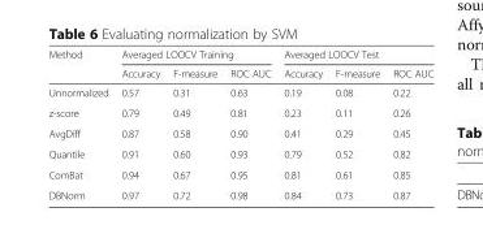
<table><thead><tr><td rowspan="2">Method</td><td colspan="3">Averaged LOOCV Training</td><td colspan="3">Averaged LOOCV Test</td></tr><tr><td>Accuracy</td><td>F-measure</td><td>ROC AUC</td><td>Accuracy</td><td>F-measure</td><td>ROC AUC</td></tr></thead><tbody><tr><td>Unnormalized</td><td>0.57</td><td>0.31</td><td>0.63</td><td>0.19</td><td>0.08</td><td>0.22</td></tr><tr><td>z-score</td><td>0.79</td><td>0.49</td><td>0.81</td><td>0.23</td><td>0.11</td><td>0.26</td></tr><tr><td>AvgDiff</td><td>0.87</td><td>0.58</td><td>0.90</td><td>0.41</td><td>0.29</td><td>0.45</td></tr><tr><td>Quantile</td><td>0.91</td><td>0.60</td><td>0.93</td><td>0.79</td><td>0.52</td><td>0.82</td></tr><tr><td>ComBat</td><td>0.94</td><td>0.67</td><td>0.95</td><td>0.81</td><td>0.61</td><td>0.85</td></tr><tr><td>DBNorm</td><td>0.97</td><td>0.72</td><td>0.98</td><td>0.84</td><td>0.73</td><td>0.87</td></tr></tbody></table>